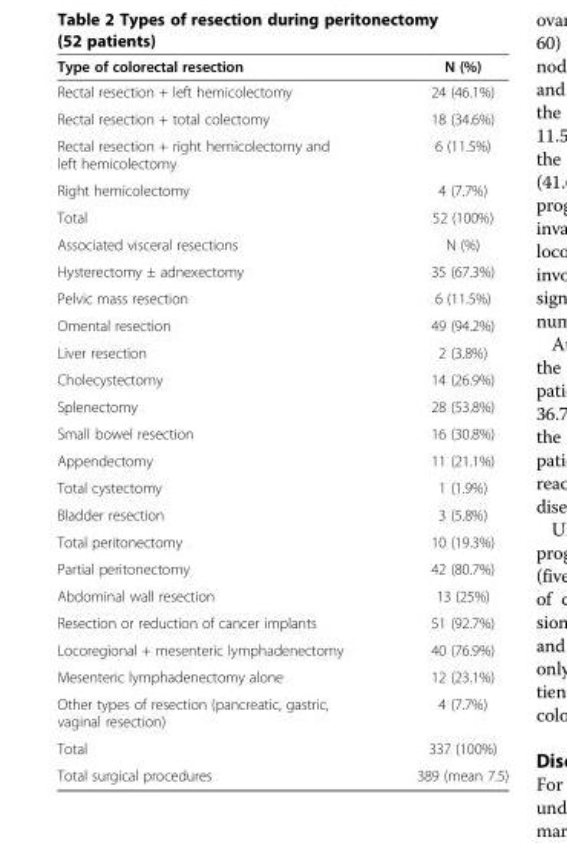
<table><thead><tr><td>Type of colorectal resection</td><td>N (%)</td></tr></thead><tbody><tr><td>Rectal resection + left hemicolectomy</td><td>24 (46.1%)</td></tr><tr><td>Rectal resection + total colectomy</td><td>18 (34.6%)</td></tr><tr><td>Rectal resection + right hemicolectomy and left hemicolectomy</td><td>6 (11.5%)</td></tr><tr><td>Right hemicolectomy</td><td>4 (7.7%)</td></tr><tr><td>Total</td><td>52 (100%)</td></tr><tr><td>Associated visceral resections</td><td>N (%)</td></tr><tr><td>Hysterectomy ± adnexectomy</td><td>35 (67.3%)</td></tr><tr><td>Pelvic mass resection</td><td>6 (11.5%)</td></tr><tr><td>Omental resection</td><td>49 (94.2%)</td></tr><tr><td>Liver resection</td><td>2 (3.8%)</td></tr><tr><td>Cholecystectomy</td><td>14 (26.9%)</td></tr><tr><td>Splenectomy</td><td>28 (53.8%)</td></tr><tr><td>Small bowel resection</td><td>16 (30.8%)</td></tr><tr><td>Appendectomy</td><td>11 (21.1%)</td></tr><tr><td>Total cystectomy</td><td>1 (1.9%)</td></tr><tr><td>Bladder resection</td><td>3 (5.8%)</td></tr><tr><td>Total peritonectomy</td><td>10 (19.3%)</td></tr><tr><td>Partial peritonectomy</td><td>42 (80.7%)</td></tr><tr><td>Abdominal wall resection</td><td>13 (25%)</td></tr><tr><td>Resection or reduction of cancer implants</td><td>51 (92.7%)</td></tr><tr><td>Locoregional + mesenteric lymphadenectomy</td><td>40 (76.9%)</td></tr><tr><td>Mesenteric lymphadenectomy alone</td><td>12 (23.1%)</td></tr><tr><td>Other types of resection (pancreatic, gastric, vaginal resection)</td><td>4 (7.7%)</td></tr><tr><td>Total</td><td>337 (100%)</td></tr><tr><td>Total surgical procedures</td><td>389 (mean 7.5)</td></tr></tbody></table>